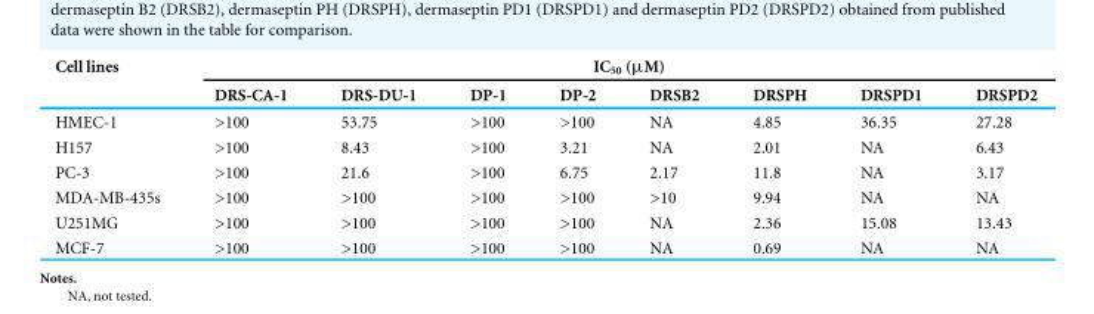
<table><thead><tr><td rowspan="2">Cell lines</td><td colspan="8">IC<sub>50</sub> (µM)</td></tr><tr><td>DRS-CA-1</td><td>DRS-DU-1</td><td>DP-1</td><td>DP-2</td><td>DRSB2</td><td>DRSPH</td><td>DRSPD1</td><td>DRSPD2</td></tr></thead><tbody><tr><td>HMEC-1</td><td>&gt;100</td><td>53.75</td><td>&gt;100</td><td>&gt;100</td><td>NA</td><td>4.85</td><td>36.35</td><td>27.28</td></tr><tr><td>H157</td><td>&gt;100</td><td>8.43</td><td>&gt;100</td><td>3.21</td><td>NA</td><td>2.01</td><td>NA</td><td>6.43</td></tr><tr><td>PC-3</td><td>&gt;100</td><td>21.6</td><td>&gt;100</td><td>6.75</td><td>2.17</td><td>11.8</td><td>NA</td><td>3.17</td></tr><tr><td>MDA-MB-435s</td><td>&gt;100</td><td>&gt;100</td><td>&gt;100</td><td>&gt;100</td><td>&gt;10</td><td>9.94</td><td>NA</td><td>NA</td></tr><tr><td>U251MG</td><td>&gt;100</td><td>&gt;100</td><td>&gt;100</td><td>&gt;100</td><td>NA</td><td>2.36</td><td>15.08</td><td>13.43</td></tr><tr><td>MCF-7</td><td>&gt;100</td><td>&gt;100</td><td>&gt;100</td><td>&gt;100</td><td>NA</td><td>0.69</td><td>NA</td><td>NA</td></tr></tbody></table>